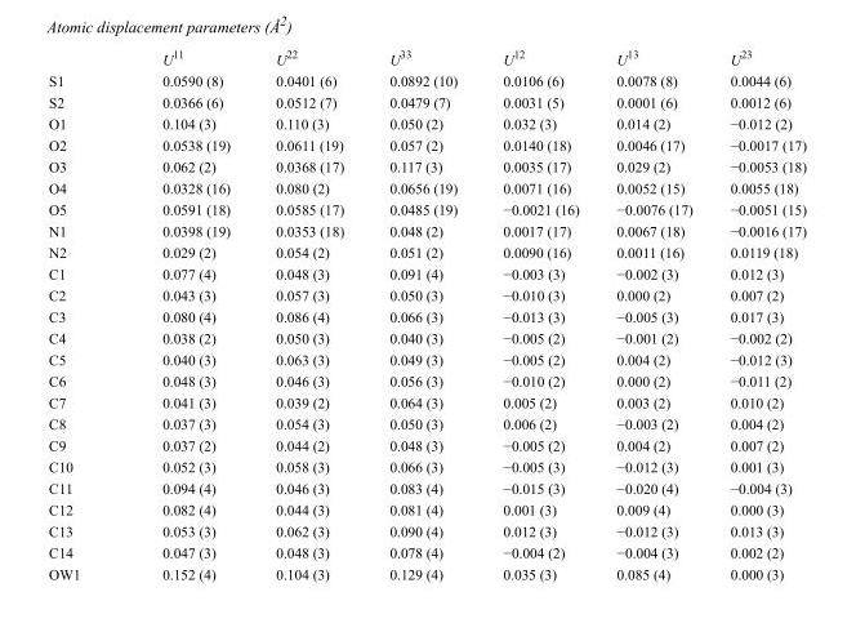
<table><thead><tr><td></td><td>U<sup>11</sup></td><td>U<sup>22</sup></td><td>U<sup>33</sup></td><td>U<sup>12</sup></td><td>U<sup>13</sup></td><td>U<sup>23</sup></td></tr></thead><tbody><tr><td>S1</td><td>0.0590 (8)</td><td>0.0401 (6)</td><td>0.0892 (10)</td><td>0.0106 (6)</td><td>0.0078 (8)</td><td>0.0044 (6)</td></tr><tr><td>S2</td><td>0.0366 (6)</td><td>0.0512 (7)</td><td>0.0479 (7)</td><td>0.0031 (5)</td><td>0.0001 (6)</td><td>0.0012 (6)</td></tr><tr><td>O1</td><td>0.104 (3)</td><td>0.110 (3)</td><td>0.050 (2)</td><td>0.032 (3)</td><td>0.014 (2)</td><td>−0.012 (2)</td></tr><tr><td>O2</td><td>0.0538 (19)</td><td>0.0611 (19)</td><td>0.057 (2)</td><td>0.0140 (18)</td><td>0.0046 (17)</td><td>−0.0017 (17)</td></tr><tr><td>O3</td><td>0.062 (2)</td><td>0.0368 (17)</td><td>0.117 (3)</td><td>0.0035 (17)</td><td>0.029 (2)</td><td>−0.0053 (18)</td></tr><tr><td>O4</td><td>0.0328 (16)</td><td>0.080 (2)</td><td>0.0656 (19)</td><td>0.0071 (16)</td><td>0.0052 (15)</td><td>0.0055 (18)</td></tr><tr><td>O5</td><td>0.0591 (18)</td><td>0.0585 (17)</td><td>0.0485 (19)</td><td>−0.0021 (16)</td><td>−0.0076 (17)</td><td>−0.0051 (15)</td></tr><tr><td>N1</td><td>0.0398 (19)</td><td>0.0353 (18)</td><td>0.048 (2)</td><td>0.0017 (17)</td><td>0.0067 (18)</td><td>−0.0016 (17)</td></tr><tr><td>N2</td><td>0.029 (2)</td><td>0.054 (2)</td><td>0.051 (2)</td><td>0.0090 (16)</td><td>0.0011 (16)</td><td>0.0119 (18)</td></tr><tr><td>C1</td><td>0.077 (4)</td><td>0.048 (3)</td><td>0.091 (4)</td><td>−0.003 (3)</td><td>−0.002 (3)</td><td>0.012 (3)</td></tr><tr><td>C2</td><td>0.043 (3)</td><td>0.057 (3)</td><td>0.050 (3)</td><td>−0.010 (3)</td><td>0.000 (2)</td><td>0.007 (2)</td></tr><tr><td>C3</td><td>0.080 (4)</td><td>0.086 (4)</td><td>0.066 (3)</td><td>−0.013 (3)</td><td>−0.005 (3)</td><td>0.017 (3)</td></tr><tr><td>C4</td><td>0.038 (2)</td><td>0.050 (3)</td><td>0.040 (3)</td><td>−0.005 (2)</td><td>−0.001 (2)</td><td>−0.002 (2)</td></tr><tr><td>C5</td><td>0.040 (3)</td><td>0.063 (3)</td><td>0.049 (3)</td><td>−0.005 (2)</td><td>0.004 (2)</td><td>−0.012 (3)</td></tr><tr><td>C6</td><td>0.048 (3)</td><td>0.046 (3)</td><td>0.056 (3)</td><td>−0.010 (2)</td><td>0.000 (2)</td><td>−0.011 (2)</td></tr><tr><td>C7</td><td>0.041 (3)</td><td>0.039 (2)</td><td>0.064 (3)</td><td>0.005 (2)</td><td>0.003 (2)</td><td>0.010 (2)</td></tr><tr><td>C8</td><td>0.037 (3)</td><td>0.054 (3)</td><td>0.050 (3)</td><td>0.006 (2)</td><td>−0.003 (2)</td><td>0.004 (2)</td></tr><tr><td>C9</td><td>0.037 (2)</td><td>0.044 (2)</td><td>0.048 (3)</td><td>−0.005 (2)</td><td>0.004 (2)</td><td>0.007 (2)</td></tr><tr><td>C10</td><td>0.052 (3)</td><td>0.058 (3)</td><td>0.066 (3)</td><td>−0.005 (3)</td><td>−0.012 (3)</td><td>0.001 (3)</td></tr><tr><td>C11</td><td>0.094 (4)</td><td>0.046 (3)</td><td>0.083 (4)</td><td>−0.015 (3)</td><td>−0.020 (4)</td><td>−0.004 (3)</td></tr><tr><td>C12</td><td>0.082 (4)</td><td>0.044 (3)</td><td>0.081 (4)</td><td>0.001 (3)</td><td>0.009 (4)</td><td>0.000 (3)</td></tr><tr><td>C13</td><td>0.053 (3)</td><td>0.062 (3)</td><td>0.090 (4)</td><td>0.012 (3)</td><td>−0.012 (3)</td><td>0.013 (3)</td></tr><tr><td>C14</td><td>0.047 (3)</td><td>0.048 (3)</td><td>0.078 (4)</td><td>−0.004 (2)</td><td>−0.004 (3)</td><td>0.002 (2)</td></tr><tr><td>OW1</td><td>0.152 (4)</td><td>0.104 (3)</td><td>0.129 (4)</td><td>0.035 (3)</td><td>0.085 (4)</td><td>0.000 (3)</td></tr></tbody></table>